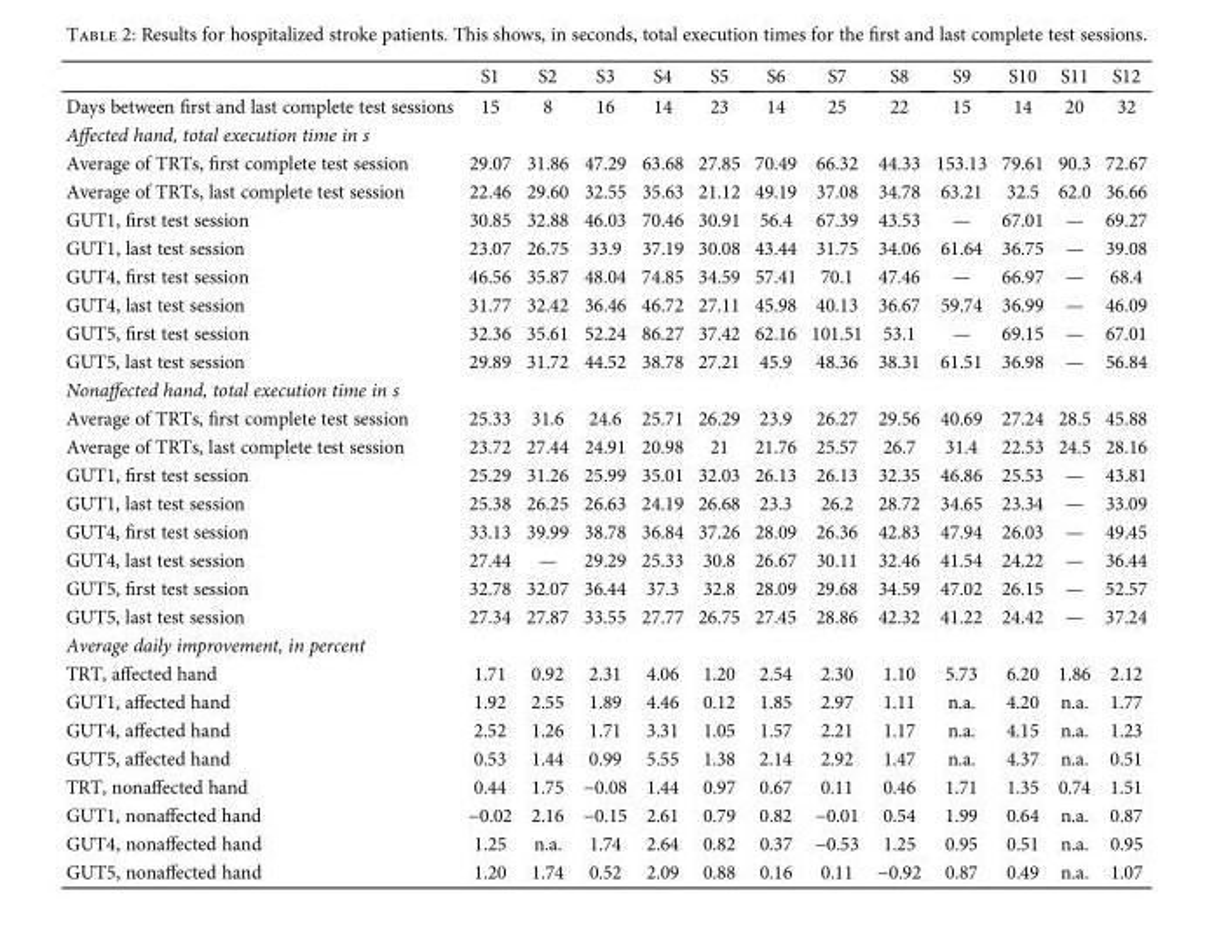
<table><thead><tr><td></td><td>S1</td><td>S2</td><td>S3</td><td>S4</td><td>S5</td><td>S6</td><td>S7</td><td>S8</td><td>S9</td><td>S10</td><td>S11</td><td>S12</td></tr></thead><tbody><tr><td>Days between first and last complete test sessions</td><td>15</td><td>8</td><td>16</td><td>14</td><td>23</td><td>14</td><td>25</td><td>22</td><td>15</td><td>14</td><td>20</td><td>32</td></tr><tr><td colspan="13">Affected hand, total execution time in s</td></tr><tr><td>Average of TRTs, first complete test session</td><td>29.07</td><td>31.86</td><td>47.29</td><td>63.68</td><td>27.85</td><td>70.49</td><td>66.32</td><td>44.33</td><td>153.13</td><td>79.61</td><td>90.3</td><td>72.67</td></tr><tr><td>Average of TRTs, last complete test session</td><td>22.46</td><td>29.60</td><td>32.55</td><td>35.63</td><td>21.12</td><td>49.19</td><td>37.08</td><td>34.78</td><td>63.21</td><td>32.5</td><td>62.0</td><td>36.66</td></tr><tr><td>GUT1, first test session</td><td>30.85</td><td>32.88</td><td>46.03</td><td>70.46</td><td>30.91</td><td>56.4</td><td>67.39</td><td>43.53</td><td>—</td><td>67.01</td><td>—</td><td>69.27</td></tr><tr><td>GUT1, last test session</td><td>23.07</td><td>26.75</td><td>33.9</td><td>37.19</td><td>30.08</td><td>43.44</td><td>31.75</td><td>34.06</td><td>61.64</td><td>36.75</td><td>—</td><td>39.08</td></tr><tr><td>GUT4, first test session</td><td>46.56</td><td>35.87</td><td>48.04</td><td>74.85</td><td>34.59</td><td>57.41</td><td>70.1</td><td>47.46</td><td>—</td><td>66.97</td><td>—</td><td>68.4</td></tr><tr><td>GUT4, last test session</td><td>31.77</td><td>32.42</td><td>36.46</td><td>46.72</td><td>27.11</td><td>45.98</td><td>40.13</td><td>36.67</td><td>59.74</td><td>36.99</td><td>—</td><td>46.09</td></tr><tr><td>GUT5, first test session</td><td>32.36</td><td>35.61</td><td>52.24</td><td>86.27</td><td>37.42</td><td>62.16</td><td>101.51</td><td>53.1</td><td>—</td><td>69.15</td><td>—</td><td>67.01</td></tr><tr><td>GUT5, last test session</td><td>29.89</td><td>31.72</td><td>44.52</td><td>38.78</td><td>27.21</td><td>45.9</td><td>48.36</td><td>38.31</td><td>61.51</td><td>36.98</td><td>—</td><td>56.84</td></tr><tr><td colspan="13">Nonaffected hand, total execution time in s</td></tr><tr><td>Average of TRTs, first complete test session</td><td>25.33</td><td>31.6</td><td>24.6</td><td>25.71</td><td>26.29</td><td>23.9</td><td>26.27</td><td>29.56</td><td>40.69</td><td>27.24</td><td>28.5</td><td>45.88</td></tr><tr><td>Average of TRTs, last complete test session</td><td>23.72</td><td>27.44</td><td>24.91</td><td>20.98</td><td>21</td><td>21.76</td><td>25.57</td><td>26.7</td><td>31.4</td><td>22.53</td><td>24.5</td><td>28.16</td></tr><tr><td>GUT1, first test session</td><td>25.29</td><td>31.26</td><td>25.99</td><td>35.01</td><td>32.03</td><td>26.13</td><td>26.13</td><td>32.35</td><td>46.86</td><td>25.53</td><td>—</td><td>43.81</td></tr><tr><td>GUT1, last test session</td><td>25.38</td><td>26.25</td><td>26.63</td><td>24.19</td><td>26.68</td><td>23.3</td><td>26.2</td><td>28.72</td><td>34.65</td><td>23.34</td><td>—</td><td>33.09</td></tr><tr><td>GUT4, first test session</td><td>33.13</td><td>39.99</td><td>38.78</td><td>36.84</td><td>37.26</td><td>28.09</td><td>26.36</td><td>42.83</td><td>47.94</td><td>26.03</td><td>—</td><td>49.45</td></tr><tr><td>GUT4, last test session</td><td>27.44</td><td>—</td><td>29.29</td><td>25.33</td><td>30.8</td><td>26.67</td><td>30.11</td><td>32.46</td><td>41.54</td><td>24.22</td><td>—</td><td>36.44</td></tr><tr><td>GUT5, first test session</td><td>32.78</td><td>32.07</td><td>36.44</td><td>37.3</td><td>32.8</td><td>28.09</td><td>29.68</td><td>34.59</td><td>47.02</td><td>26.15</td><td>—</td><td>52.57</td></tr><tr><td>GUT5, last test session</td><td>27.34</td><td>27.87</td><td>33.55</td><td>27.77</td><td>26.75</td><td>27.45</td><td>28.86</td><td>42.32</td><td>41.22</td><td>24.42</td><td>—</td><td>37.24</td></tr><tr><td colspan="13">Average daily improvement, in percent</td></tr><tr><td>TRT, affected hand</td><td>1.71</td><td>0.92</td><td>2.31</td><td>4.06</td><td>1.20</td><td>2.54</td><td>2.30</td><td>1.10</td><td>5.73</td><td>6.20</td><td>1.86</td><td>2.12</td></tr><tr><td>GUT1, affected hand</td><td>1.92</td><td>2.55</td><td>1.89</td><td>4.46</td><td>0.12</td><td>1.85</td><td>2.97</td><td>1.11</td><td>n.a.</td><td>4.20</td><td>n.a.</td><td>1.77</td></tr><tr><td>GUT4, affected hand</td><td>2.52</td><td>1.26</td><td>1.71</td><td>3.31</td><td>1.05</td><td>1.57</td><td>2.21</td><td>1.17</td><td>n.a.</td><td>4.15</td><td>n.a.</td><td>1.23</td></tr><tr><td>GUT5, affected hand</td><td>0.53</td><td>1.44</td><td>0.99</td><td>5.55</td><td>1.38</td><td>2.14</td><td>2.92</td><td>1.47</td><td>n.a.</td><td>4.37</td><td>n.a.</td><td>0.51</td></tr><tr><td>TRT, nonaffected hand</td><td>0.44</td><td>1.75</td><td>−0.08</td><td>1.44</td><td>0.97</td><td>0.67</td><td>0.11</td><td>0.46</td><td>1.71</td><td>1.35</td><td>0.74</td><td>1.51</td></tr><tr><td>GUT1, nonaffected hand</td><td>−0.02</td><td>2.16</td><td>−0.15</td><td>2.61</td><td>0.79</td><td>0.82</td><td>−0.01</td><td>0.54</td><td>1.99</td><td>0.64</td><td>n.a.</td><td>0.87</td></tr><tr><td>GUT4, nonaffected hand</td><td>1.25</td><td>n.a.</td><td>1.74</td><td>2.64</td><td>0.82</td><td>0.37</td><td>−0.53</td><td>1.25</td><td>0.95</td><td>0.51</td><td>n.a.</td><td>0.95</td></tr><tr><td>GUT5, nonaffected hand</td><td>1.20</td><td>1.74</td><td>0.52</td><td>2.09</td><td>0.88</td><td>0.16</td><td>0.11</td><td>−0.92</td><td>0.87</td><td>0.49</td><td>n.a.</td><td>1.07</td></tr></tbody></table>